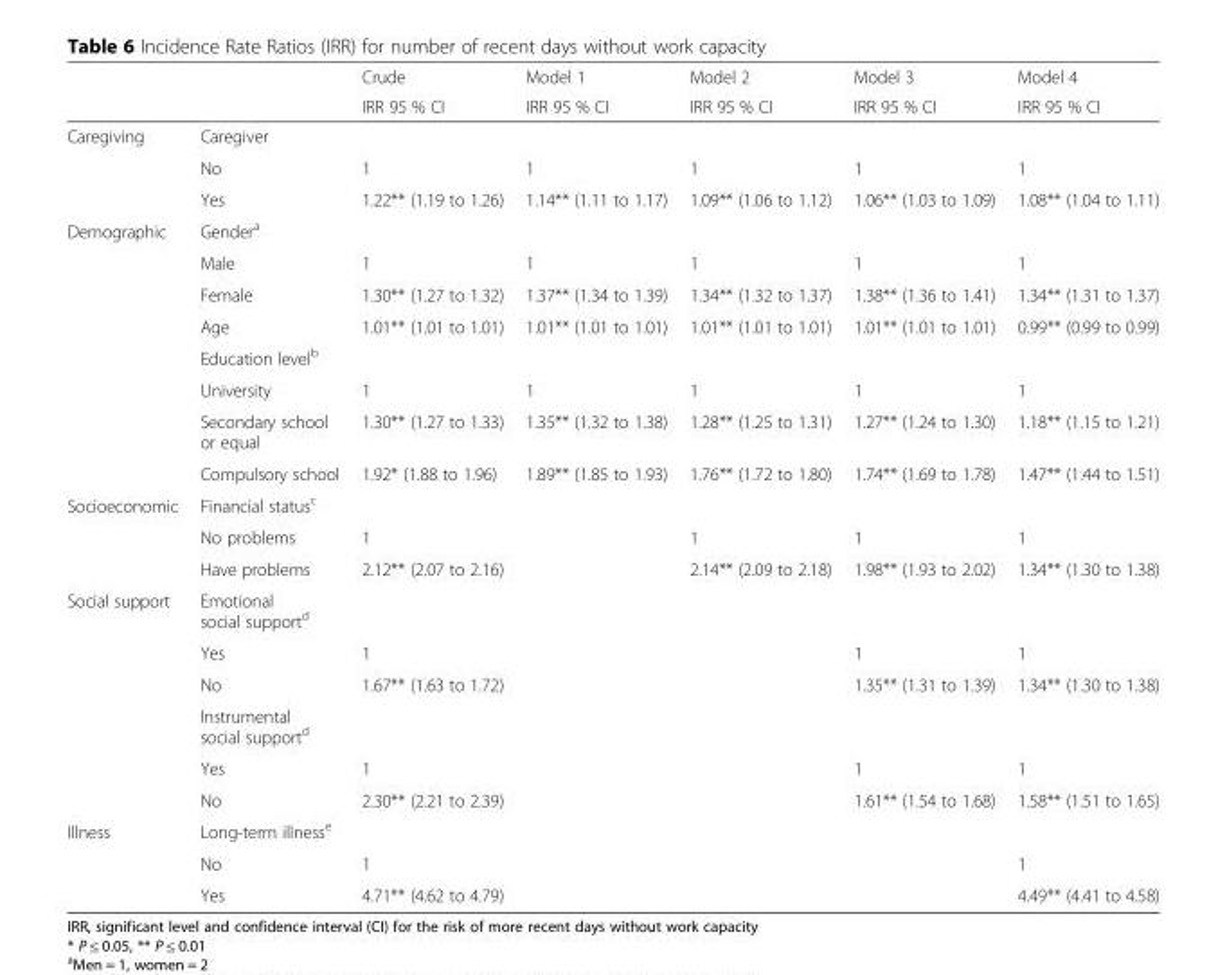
<table><thead><tr><td rowspan="2"></td><td rowspan="2"></td><td rowspan="2">Crude IRR 95 % CI</td><td rowspan="2">Model 1 IRR 95 % CI</td><td rowspan="2">Model 2 IRR 95 % CI</td><td rowspan="2">Model 3 IRR 95 % CI</td><td rowspan="2">Model 4 IRR 95 % CI</td></tr><tr></tr></thead><tbody><tr><td rowspan="3">Caregiving</td><td>Caregiver</td><td></td><td></td><td></td><td></td><td></td></tr><tr><td>No</td><td>1</td><td>1</td><td>1</td><td>1</td><td>1</td></tr><tr><td>Yes</td><td>1.22** (1.19 to 1.26)</td><td>1.14** (1.11 to 1.17)</td><td>1.09** (1.06 to 1.12)</td><td>1.06** (1.03 to 1.09)</td><td>1.08** (1.04 to 1.11)</td></tr><tr><td rowspan="8">Demographic</td><td>Gender<sup>a</sup></td><td></td><td></td><td></td><td></td><td></td></tr><tr><td>Male</td><td>1</td><td>1</td><td>1</td><td>1</td><td>1</td></tr><tr><td>Female</td><td>1.30** (1.27 to 1.32)</td><td>1.37** (1.34 to 1.39)</td><td>1.34** (1.32 to 1.37)</td><td>1.38** (1.36 to 1.41)</td><td>1.34** (1.31 to 1.37)</td></tr><tr><td>Age</td><td>1.01** (1.01 to 1.01)</td><td>1.01** (1.01 to 1.01)</td><td>1.01** (1.01 to 1.01)</td><td>1.01** (1.01 to 1.01)</td><td>0.99** (0.99 to 0.99)</td></tr><tr><td>Education level<sup>b</sup></td><td></td><td></td><td></td><td></td><td></td></tr><tr><td>University</td><td>1</td><td>1</td><td>1</td><td>1</td><td>1</td></tr><tr><td>Secondary school or equal</td><td>1.30** (1.27 to 1.33)</td><td>1.35** (1.32 to 1.38)</td><td>1.28** (1.25 to 1.31)</td><td>1.27** (1.24 to 1.30)</td><td>1.18** (1.15 to 1.21)</td></tr><tr><td>Compulsory school</td><td>1.92* (1.88 to 1.96)</td><td>1.89** (1.85 to 1.93)</td><td>1.76** (1.72 to 1.80)</td><td>1.74** (1.69 to 1.78)</td><td>1.47** (1.44 to 1.51)</td></tr><tr><td rowspan="3">Socioeconomic</td><td>Financial status<sup>c</sup></td><td></td><td></td><td></td><td></td><td></td></tr><tr><td>No problems</td><td>1</td><td></td><td>1</td><td>1</td><td>1</td></tr><tr><td>Have problems</td><td>2.12** (2.07 to 2.16)</td><td></td><td>2.14** (2.09 to 2.18)</td><td>1.98** (1.93 to 2.02)</td><td>1.34** (1.30 to 1.38)</td></tr><tr><td rowspan="6">Social support</td><td>Emotional social support<sup>d</sup></td><td></td><td></td><td></td><td></td><td></td></tr><tr><td>Yes</td><td>1</td><td></td><td></td><td>1</td><td>1</td></tr><tr><td>No</td><td>1.67** (1.63 to 1.72)</td><td></td><td></td><td>1.35** (1.31 to 1.39)</td><td>1.34** (1.30 to 1.38)</td></tr><tr><td>Instrumental social support<sup>d</sup></td><td></td><td></td><td></td><td></td><td></td></tr><tr><td>Yes</td><td>1</td><td></td><td></td><td>1</td><td>1</td></tr><tr><td>No</td><td>2.30** (2.21 to 2.39)</td><td></td><td></td><td>1.61** (1.54 to 1.68)</td><td>1.58** (1.51 to 1.65)</td></tr><tr><td rowspan="3">Illness</td><td>Long-term illness<sup>e</sup></td><td></td><td></td><td></td><td></td><td></td></tr><tr><td>No</td><td>1</td><td></td><td></td><td></td><td>1</td></tr><tr><td>Yes</td><td>4.71** (4.62 to 4.79)</td><td></td><td></td><td></td><td>4.49** (4.41 to 4.58)</td></tr></tbody></table>